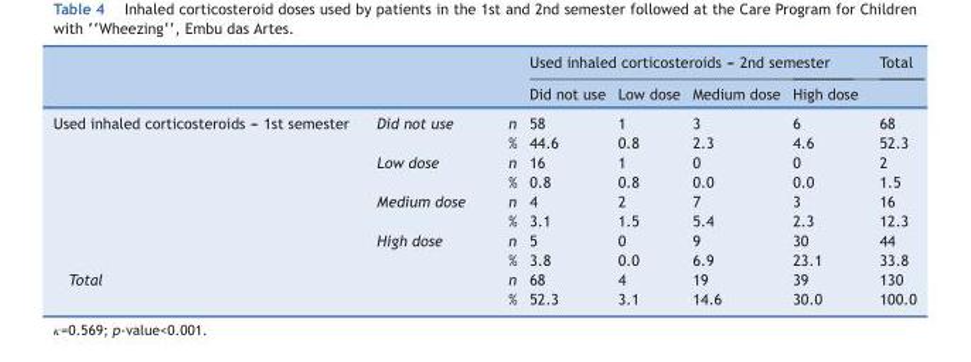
<table><thead><tr><td rowspan="2"></td><td rowspan="2"></td><td rowspan="2"></td><td colspan="4">Used inhaled corticosteroids --- 2nd semester</td><td rowspan="2">Total</td></tr><tr><td>Did not use</td><td>Low dose</td><td>Medium dose</td><td>High dose</td></tr></thead><tbody><tr><td rowspan="8">Used inhaled corticosteroids --- 1st semester</td><td>Did not use</td><td>n</td><td>58</td><td>1</td><td>3</td><td>6</td><td>68</td></tr><tr><td></td><td>%</td><td>44.6</td><td>0.8</td><td>2.3</td><td>4.6</td><td>52.3</td></tr><tr><td>Low dose</td><td>n</td><td>16</td><td>1</td><td>0</td><td>0</td><td>2</td></tr><tr><td></td><td>%</td><td>0.8</td><td>0.8</td><td>0.0</td><td>0.0</td><td>1.5</td></tr><tr><td>Medium dose</td><td>n</td><td>4</td><td>2</td><td>7</td><td>3</td><td>16</td></tr><tr><td></td><td>%</td><td>3.1</td><td>1.5</td><td>5.4</td><td>2.3</td><td>12.3</td></tr><tr><td>High dose</td><td>n</td><td>5</td><td>0</td><td>9</td><td>30</td><td>44</td></tr><tr><td></td><td>%</td><td>3.8</td><td>0.0</td><td>6.9</td><td>23.1</td><td>33.8</td></tr><tr><td rowspan="2">Total</td><td></td><td>n</td><td>68</td><td>4</td><td>19</td><td>39</td><td>130</td></tr><tr><td></td><td>%</td><td>52.3</td><td>3.1</td><td>14.6</td><td>30.0</td><td>100.0</td></tr></tbody></table>